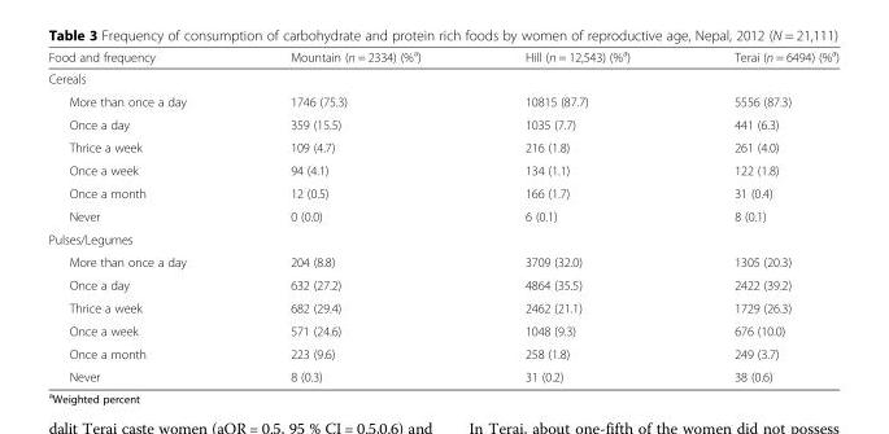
<table><thead><tr><td>Food and frequency</td><td>Mountain (n = 2334) (%<sup>a</sup>)</td><td>Hill (n = 12,543) (%<sup>a</sup>)</td><td>Terai (n = 6494) (%<sup>a</sup>)</td></tr></thead><tbody><tr><td colspan="4">Cereals</td></tr><tr><td>More than once a day</td><td>1746 (75.3)</td><td>10815 (87.7)</td><td>5556 (87.3)</td></tr><tr><td>Once a day</td><td>359 (15.5)</td><td>1035 (7.7)</td><td>441 (6.3)</td></tr><tr><td>Thrice a week</td><td>109 (4.7)</td><td>216 (1.8)</td><td>261 (4.0)</td></tr><tr><td>Once a week</td><td>94 (4.1)</td><td>134 (1.1)</td><td>122 (1.8)</td></tr><tr><td>Once a month</td><td>12 (0.5)</td><td>166 (1.7)</td><td>31 (0.4)</td></tr><tr><td>Never</td><td>0 (0.0)</td><td>6 (0.1)</td><td>8 (0.1)</td></tr><tr><td colspan="4">Pulses/Legumes</td></tr><tr><td>More than once a day</td><td>204 (8.8)</td><td>3709 (32.0)</td><td>1305 (20.3)</td></tr><tr><td>Once a day</td><td>632 (27.2)</td><td>4864 (35.5)</td><td>2422 (39.2)</td></tr><tr><td>Thrice a week</td><td>682 (29.4)</td><td>2462 (21.1)</td><td>1729 (26.3)</td></tr><tr><td>Once a week</td><td>571 (24.6)</td><td>1048 (9.3)</td><td>676 (10.0)</td></tr><tr><td>Once a month</td><td>223 (9.6)</td><td>258 (1.8)</td><td>249 (3.7)</td></tr><tr><td>Never</td><td>8 (0.3)</td><td>31 (0.2)</td><td>38 (0.6)</td></tr></tbody></table>